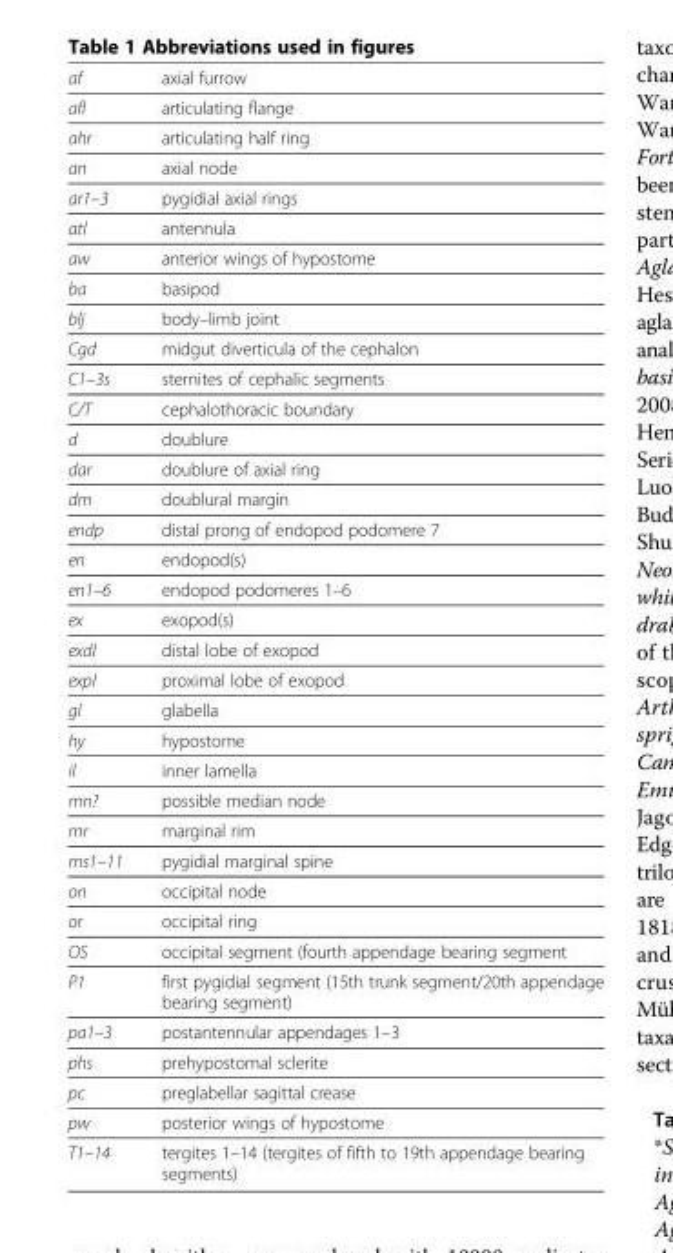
<table><thead><tr><td>af</td><td>axial furrow</td></tr></thead><tbody><tr><td>afl</td><td>articulating flange</td></tr><tr><td>ahr</td><td>articulating half ring</td></tr><tr><td>an</td><td>axial node</td></tr><tr><td>ar1–3</td><td>pygidial axial rings</td></tr><tr><td>atl</td><td>antennula</td></tr><tr><td>aw</td><td>anterior wings of hypostome</td></tr><tr><td>ba</td><td>basipod</td></tr><tr><td>blj</td><td>body–limb joint</td></tr><tr><td>Cgd</td><td>midgut diverticula of the cephalon</td></tr><tr><td>C1–3s</td><td>sternites of cephalic segments</td></tr><tr><td>C/T</td><td>cephalothoracic boundary</td></tr><tr><td>d</td><td>doublure</td></tr><tr><td>dar</td><td>doublure of axial ring</td></tr><tr><td>dm</td><td>doublural margin</td></tr><tr><td>endp</td><td>distal prong of endopod podomere 7</td></tr><tr><td>en</td><td>endopod(s)</td></tr><tr><td>en1–6</td><td>endopod podomeres 1–6</td></tr><tr><td>ex</td><td>exopod(s)</td></tr><tr><td>exdl</td><td>distal lobe of exopod</td></tr><tr><td>expl</td><td>proximal lobe of exopod</td></tr><tr><td>gl</td><td>glabella</td></tr><tr><td>hy</td><td>hypostome</td></tr><tr><td>il</td><td>inner lamella</td></tr><tr><td>mn?</td><td>possible median node</td></tr><tr><td>mr</td><td>marginal rim</td></tr><tr><td>ms1–11</td><td>pygidial marginal spine</td></tr><tr><td>on</td><td>occipital node</td></tr><tr><td>or</td><td>occipital ring</td></tr><tr><td>OS</td><td>occipital segment (fourth appendage bearing segment</td></tr><tr><td>P1</td><td>first pygidial segment (15th trunk segment/20th appendage bearing segment)</td></tr><tr><td>pa1–3</td><td>postantennular appendages 1–3</td></tr><tr><td>phs</td><td>prehypostomal sclerite</td></tr><tr><td>pc</td><td>preglabellar sagittal crease</td></tr><tr><td>pw</td><td>posterior wings of hypostome</td></tr><tr><td>T1–14</td><td>tergites 1–14 (tergites of fifth to 19th appendage bearing segments)</td></tr></tbody></table>